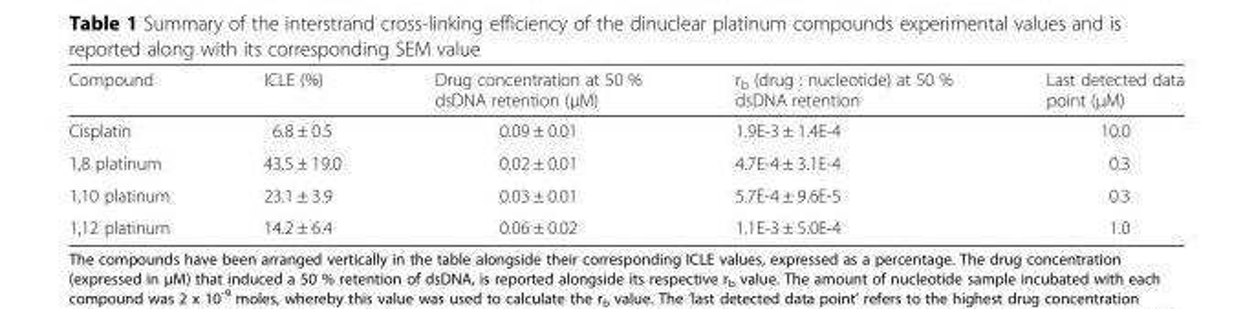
<table><thead><tr><td>Compound</td><td>ICLE (%)</td><td>Drug concentration at 50 % dsDNA retention (μM)</td><td>r<sub>b</sub> (drug : nucleotide) at 50 % dsDNA retention</td><td>Last detected data point (μM)</td></tr></thead><tbody><tr><td>Cisplatin</td><td>6.8 ± 0.5</td><td>0.09 ± 0.01</td><td>1.9E-3 ± 1.4E-4</td><td>10.0</td></tr><tr><td>1,8 platinum</td><td>43.5 ± 19.0</td><td>0.02 ± 0.01</td><td>4.7E-4 ± 3.1E-4</td><td>0.3</td></tr><tr><td>1,10 platinum</td><td>23.1 ± 3.9</td><td>0.03 ± 0.01</td><td>5.7E-4 ± 9.6E-5</td><td>0.3</td></tr><tr><td>1,12 platinum</td><td>14.2 ± 6.4</td><td>0.06 ± 0.02</td><td>1.1E-3 ± 5.0E-4</td><td>1.0</td></tr></tbody></table>